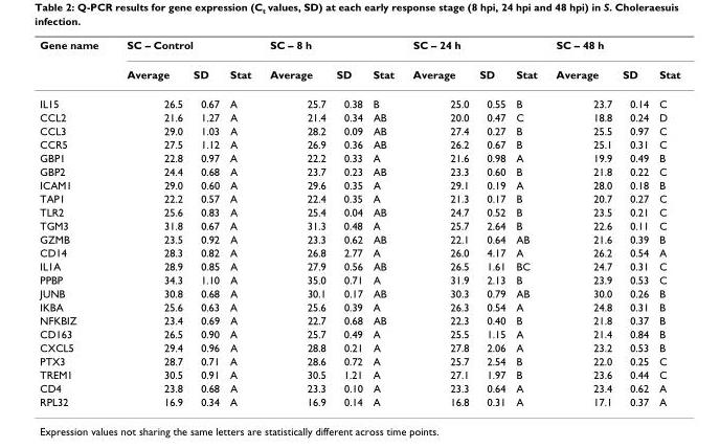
<table><thead><tr><td rowspan="2">Gene name</td><td colspan="3">SC – Control</td><td colspan="3">SC – 8 h</td><td colspan="3">SC – 24 h</td><td colspan="3">SC – 48 h</td></tr><tr><td>Average</td><td>SD</td><td>Stat</td><td>Average</td><td>SD</td><td>Stat</td><td>Average</td><td>SD</td><td>Stat</td><td>Average</td><td>SD</td><td>Stat</td></tr></thead><tbody><tr><td>IL15</td><td>26.5</td><td>0.67</td><td>A</td><td>25.7</td><td>0.38</td><td>B</td><td>25.0</td><td>0.55</td><td>B</td><td>23.7</td><td>0.14</td><td>C</td></tr><tr><td>CCL2</td><td>21.6</td><td>1.27</td><td>A</td><td>21.4</td><td>0.34</td><td>AB</td><td>20.0</td><td>0.47</td><td>C</td><td>18.8</td><td>0.24</td><td>D</td></tr><tr><td>CCL3</td><td>29.0</td><td>1.03</td><td>A</td><td>28.2</td><td>0.09</td><td>AB</td><td>27.4</td><td>0.27</td><td>B</td><td>25.5</td><td>0.97</td><td>C</td></tr><tr><td>CCR5</td><td>27.5</td><td>1.12</td><td>A</td><td>26.9</td><td>0.36</td><td>AB</td><td>26.2</td><td>0.67</td><td>B</td><td>25.1</td><td>0.31</td><td>C</td></tr><tr><td>GBP1</td><td>22.8</td><td>0.97</td><td>A</td><td>22.2</td><td>0.33</td><td>A</td><td>21.6</td><td>0.98</td><td>A</td><td>19.9</td><td>0.49</td><td>B</td></tr><tr><td>GBP2</td><td>24.4</td><td>0.68</td><td>A</td><td>23.7</td><td>0.23</td><td>AB</td><td>23.3</td><td>0.60</td><td>B</td><td>21.8</td><td>0.22</td><td>C</td></tr><tr><td>ICAM1</td><td>29.0</td><td>0.60</td><td>A</td><td>29.6</td><td>0.35</td><td>A</td><td>29.1</td><td>0.19</td><td>A</td><td>28.0</td><td>0.18</td><td>B</td></tr><tr><td>TAP1</td><td>22.2</td><td>0.57</td><td>A</td><td>22.4</td><td>0.35</td><td>A</td><td>21.3</td><td>0.17</td><td>B</td><td>20.7</td><td>0.27</td><td>C</td></tr><tr><td>TLR2</td><td>25.6</td><td>0.83</td><td>A</td><td>25.4</td><td>0.04</td><td>AB</td><td>24.7</td><td>0.52</td><td>B</td><td>23.5</td><td>0.21</td><td>C</td></tr><tr><td>TGM3</td><td>31.8</td><td>0.67</td><td>A</td><td>31.3</td><td>0.48</td><td>A</td><td>25.7</td><td>2.64</td><td>B</td><td>22.6</td><td>0.11</td><td>C</td></tr><tr><td>GZMB</td><td>23.5</td><td>0.92</td><td>A</td><td>23.3</td><td>0.62</td><td>AB</td><td>22.1</td><td>0.64</td><td>AB</td><td>21.6</td><td>0.39</td><td>B</td></tr><tr><td>CD14</td><td>28.3</td><td>0.82</td><td>A</td><td>26.8</td><td>2.77</td><td>A</td><td>26.0</td><td>4.17</td><td>A</td><td>26.2</td><td>0.54</td><td>A</td></tr><tr><td>IL1A</td><td>28.9</td><td>0.85</td><td>A</td><td>27.9</td><td>0.56</td><td>AB</td><td>26.5</td><td>1.61</td><td>BC</td><td>24.7</td><td>0.31</td><td>C</td></tr><tr><td>PPBP</td><td>34.3</td><td>1.10</td><td>A</td><td>35.0</td><td>0.71</td><td>A</td><td>31.9</td><td>2.13</td><td>B</td><td>23.9</td><td>0.53</td><td>C</td></tr><tr><td>JUNB</td><td>30.8</td><td>0.68</td><td>A</td><td>30.1</td><td>0.17</td><td>AB</td><td>30.3</td><td>0.79</td><td>AB</td><td>30.0</td><td>0.26</td><td>B</td></tr><tr><td>IKBA</td><td>25.6</td><td>0.63</td><td>A</td><td>25.6</td><td>0.39</td><td>A</td><td>26.3</td><td>0.54</td><td>A</td><td>24.8</td><td>0.31</td><td>B</td></tr><tr><td>NFKBIZ</td><td>23.4</td><td>0.69</td><td>A</td><td>22.7</td><td>0.68</td><td>AB</td><td>22.3</td><td>0.40</td><td>B</td><td>21.8</td><td>0.37</td><td>B</td></tr><tr><td>CD163</td><td>26.5</td><td>0.90</td><td>A</td><td>25.7</td><td>0.49</td><td>A</td><td>25.5</td><td>1.15</td><td>A</td><td>21.4</td><td>0.84</td><td>B</td></tr><tr><td>CXCL5</td><td>29.4</td><td>0.96</td><td>A</td><td>28.8</td><td>0.21</td><td>A</td><td>27.8</td><td>2.06</td><td>A</td><td>23.2</td><td>0.53</td><td>B</td></tr><tr><td>PTX3</td><td>28.7</td><td>0.71</td><td>A</td><td>28.6</td><td>0.72</td><td>A</td><td>25.7</td><td>2.54</td><td>B</td><td>22.0</td><td>0.25</td><td>C</td></tr><tr><td>TREM1</td><td>30.5</td><td>0.91</td><td>A</td><td>30.5</td><td>1.21</td><td>A</td><td>27.1</td><td>1.97</td><td>B</td><td>23.6</td><td>0.44</td><td>C</td></tr><tr><td>CD4</td><td>23.8</td><td>0.68</td><td>A</td><td>23.3</td><td>0.10</td><td>A</td><td>23.3</td><td>0.64</td><td>A</td><td>23.4</td><td>0.62</td><td>A</td></tr><tr><td>RPL32</td><td>16.9</td><td>0.34</td><td>A</td><td>16.9</td><td>0.14</td><td>A</td><td>16.8</td><td>0.31</td><td>A</td><td>17.1</td><td>0.37</td><td>A</td></tr></tbody></table>